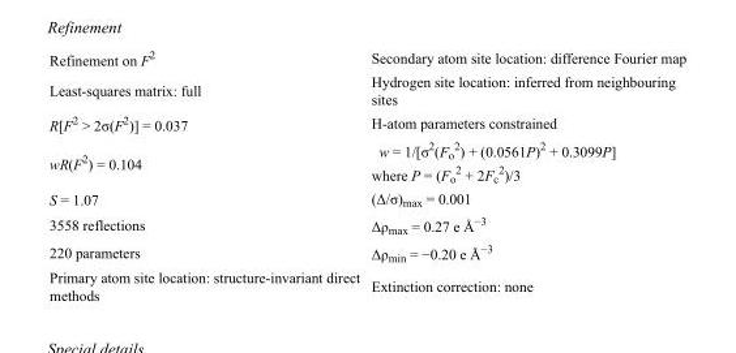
<table><tbody><tr><td>Refinement on F<sup>2</sup></td><td>Secondary atom site location: difference Fourier map</td></tr><tr><td>Least-squares matrix: full</td><td>Hydrogen site location: inferred from neighbouring sites</td></tr><tr><td>R[F<sup>2</sup> &gt; 2σ(F<sup>2</sup>)] = 0.037</td><td>H-atom parameters constrained</td></tr><tr><td>wR(F<sup>2</sup>) = 0.104</td><td>w = 1/[σ<sup>2</sup>(F<sub>o</sub> <sup>2</sup>) + (0.0561P)<sup>2</sup> + 0.3099P] where P = (F<sub>o</sub> <sup>2</sup> + 2F<sub>c</sub> <sup>2</sup>)/3</td></tr><tr><td>S = 1.07</td><td>(Δ/σ)<sub>max</sub> = 0.001</td></tr><tr><td>3558 reflections</td><td>Δρ<sub>max</sub> = 0.27 e Å<sup>−3</sup></td></tr><tr><td>220 parameters</td><td>Δρ<sub>min</sub> = −0.20 e Å<sup>−3</sup></td></tr><tr><td>Primary atom site location: structure-invariant direct methods</td><td>Extinction correction: none</td></tr></tbody></table>